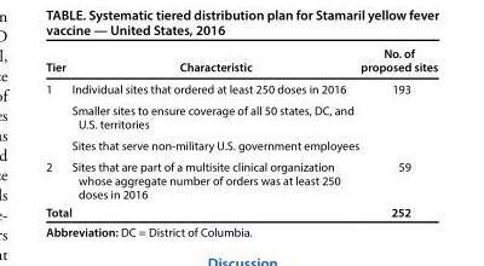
<table><thead><tr><td>Tier</td><td>Characteristic</td><td>No. of proposed sites</td></tr></thead><tbody><tr><td rowspan="3">1</td><td>Individual sites that ordered at least 250 doses in 2016</td><td rowspan="3">193</td></tr><tr><td>Smaller sites to ensure coverage of all 50 states, DC, and U.S. territories</td></tr><tr><td>Sites that serve non-military U.S. government employees</td></tr><tr><td>2</td><td>Sites that are part of a multisite clinical organization whose aggregate number of orders was at least 250 doses in 2016</td><td>59</td></tr><tr><td colspan="2">Total</td><td>252</td></tr></tbody></table>